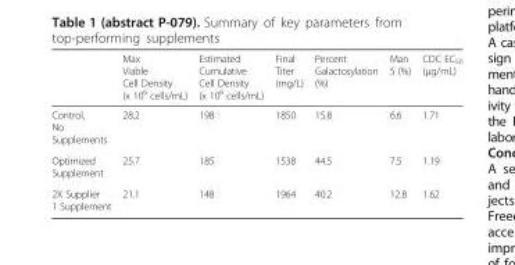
<table><thead><tr><td></td><td>Max Viable Cell Density (x 10<sup>6</sup> cells/mL)</td><td>Estimated Cumulative Cell Density (x 10<sup>6</sup> cells/mL)</td><td>Final Titer (mg/L)</td><td>Percent Galactosylation (%)</td><td>Man 5 (%)</td><td>CDC EC<sub>50</sub> (μg/mL)</td></tr></thead><tbody><tr><td>Control, No Supplements</td><td>28.2</td><td>198</td><td>1850</td><td>15.8</td><td>6.6</td><td>1.71</td></tr><tr><td>Optimized Supplement</td><td>25.7</td><td>185</td><td>1538</td><td>44.5</td><td>7.5</td><td>1.19</td></tr><tr><td>2X Supplier 1 Supplement</td><td>21.1</td><td>148</td><td>1964</td><td>40.2</td><td>12.8</td><td>1.62</td></tr></tbody></table>